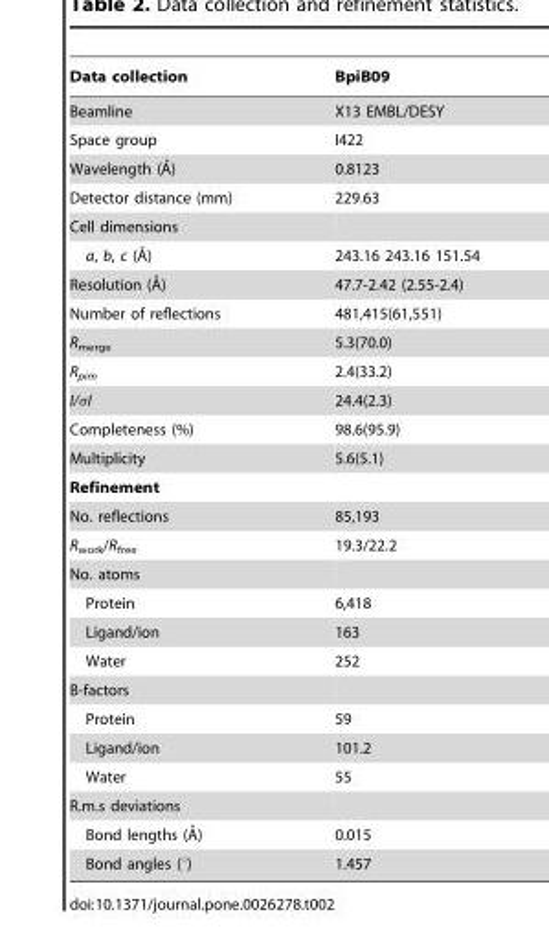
<table><thead><tr><td>Data collection</td><td>BpiB09</td></tr></thead><tbody><tr><td>Beamline</td><td>X13 EMBL/DESY</td></tr><tr><td>Space group</td><td>I422</td></tr><tr><td>Wavelength (A˚)</td><td>0.8123</td></tr><tr><td>Detector distance (mm)</td><td>229.63</td></tr><tr><td colspan="2">Cell dimensions</td></tr><tr><td>a, b, c (A˚)</td><td>243.16 243.16 151.54</td></tr><tr><td>Resolution (A˚)</td><td>47.7-2.42 (2.55-2.4)</td></tr><tr><td>Number of reflections</td><td>481,415(61,551)</td></tr><tr><td>R<sub>merge</sub></td><td>5.3(70.0)</td></tr><tr><td>R<sub>pim</sub></td><td>2.4(33.2)</td></tr><tr><td>I/σI</td><td>24.4(2.3)</td></tr><tr><td>Completeness (%)</td><td>98.6(95.9)</td></tr><tr><td>Multiplicity</td><td>5.6(5.1)</td></tr><tr><td colspan="2">Refinement</td></tr><tr><td>No. reflections</td><td>85,193</td></tr><tr><td>R<sub>work</sub>/R<sub>free</sub></td><td>19.3/22.2</td></tr><tr><td colspan="2">No. atoms</td></tr><tr><td>Protein</td><td>6,418</td></tr><tr><td>Ligand/ion</td><td>163</td></tr><tr><td>Water</td><td>252</td></tr><tr><td colspan="2">B-factors</td></tr><tr><td>Protein</td><td>59</td></tr><tr><td>Ligand/ion</td><td>101.2</td></tr><tr><td>Water</td><td>55</td></tr><tr><td colspan="2">R.m.s deviations</td></tr><tr><td>Bond lengths (A˚)</td><td>0.015</td></tr><tr><td>Bond angles (°)</td><td>1.457</td></tr></tbody></table>